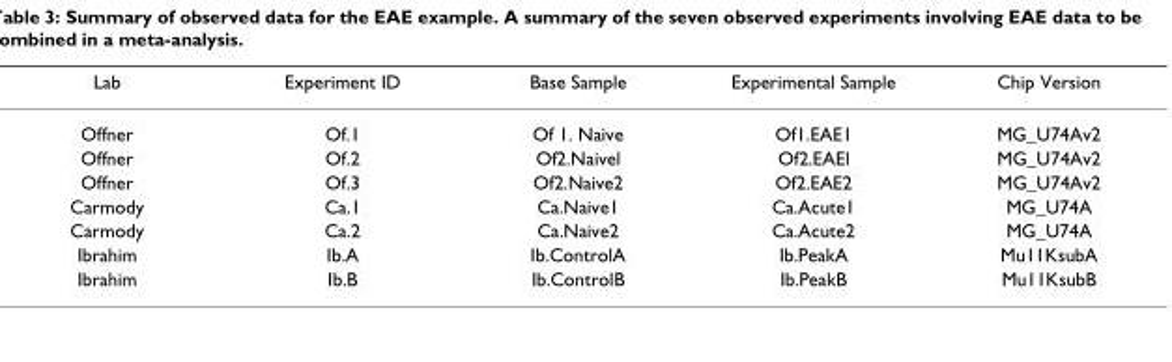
<table><thead><tr><td>Lab</td><td>Experiment ID</td><td>Base Sample</td><td>Experimental Sample</td><td>Chip Version</td></tr></thead><tbody><tr><td>Offner</td><td>Of.1</td><td>Of 1. Naive</td><td>Of1.EAE1</td><td>MG_U74Av2</td></tr><tr><td>Offner</td><td>Of.2</td><td>Of2.Naivel</td><td>Of2.EAEl</td><td>MG_U74Av2</td></tr><tr><td>Offner</td><td>Of.3</td><td>Of2.Naive2</td><td>Of2.EAE2</td><td>MG_U74Av2</td></tr><tr><td>Carmody</td><td>Ca.1</td><td>Ca.Naive1</td><td>Ca.Acute1</td><td>MG_U74A</td></tr><tr><td>Carmody</td><td>Ca.2</td><td>Ca.Naive2</td><td>Ca.Acute2</td><td>MG_U74A</td></tr><tr><td>Ibrahim</td><td>Ib.A</td><td>Ib.ControlA</td><td>Ib.PeakA</td><td>Mu11KsubA</td></tr><tr><td>Ibrahim</td><td>Ib.B</td><td>Ib.ControlB</td><td>Ib.PeakB</td><td>Mu11KsubB</td></tr></tbody></table>